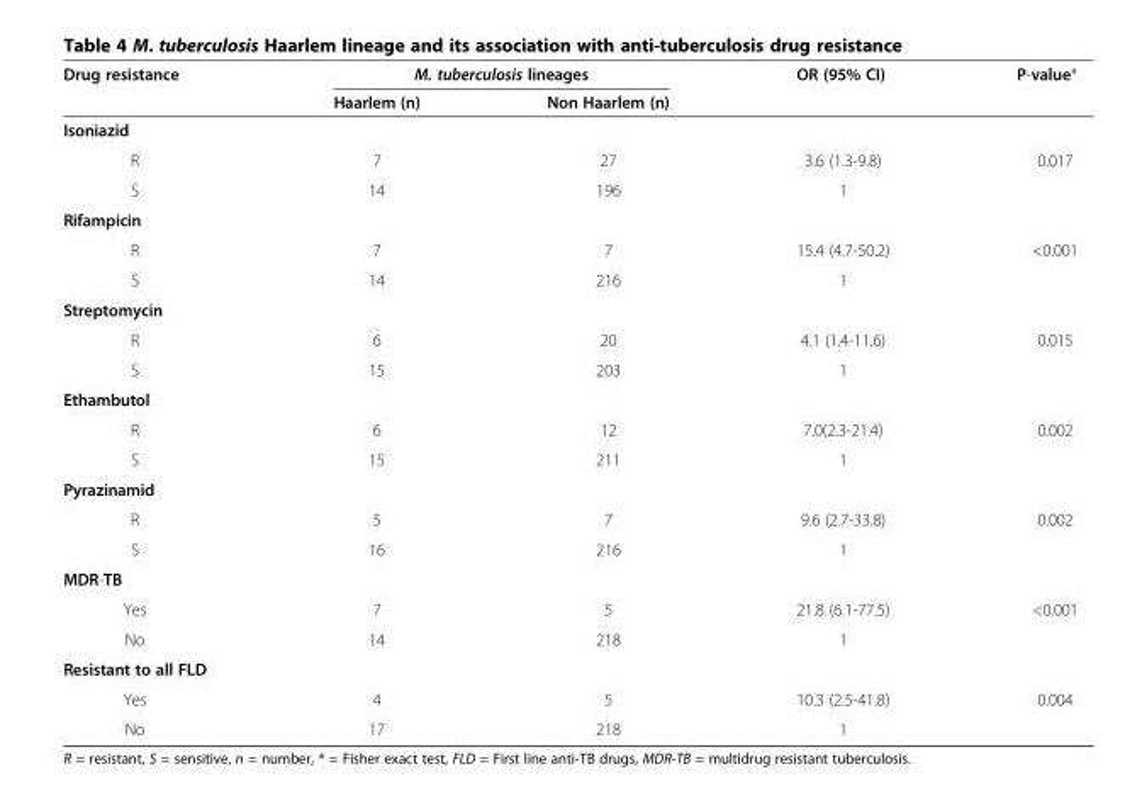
<table><thead><tr><td rowspan="2">Drug resistance</td><td colspan="2">M. tuberculosis lineages</td><td rowspan="2">OR (95% CI)</td><td rowspan="2">P-value*</td></tr><tr><td>Haarlem (n)</td><td>Non Haarlem (n)</td></tr></thead><tbody><tr><td colspan="5">Isoniazid</td></tr><tr><td>R</td><td>7</td><td>27</td><td>3.6 (1.3-9.8)</td><td>0.017</td></tr><tr><td>S</td><td>14</td><td>196</td><td>1</td><td></td></tr><tr><td colspan="5">Rifampicin</td></tr><tr><td>R</td><td>7</td><td>7</td><td>15.4 (4.7-50.2)</td><td>&lt;0.001</td></tr><tr><td>S</td><td>14</td><td>216</td><td>1</td><td></td></tr><tr><td colspan="5">Streptomycin</td></tr><tr><td>R</td><td>6</td><td>20</td><td>4.1 (1.4-11.6)</td><td>0.015</td></tr><tr><td>S</td><td>15</td><td>203</td><td>1</td><td></td></tr><tr><td colspan="5">Ethambutol</td></tr><tr><td>R</td><td>6</td><td>12</td><td>7.0(2.3-21.4)</td><td>0.002</td></tr><tr><td>S</td><td>15</td><td>211</td><td>1</td><td></td></tr><tr><td colspan="5">Pyrazinamid</td></tr><tr><td>R</td><td>5</td><td>7</td><td>9.6 (2.7-33.8)</td><td>0.002</td></tr><tr><td>S</td><td>16</td><td>216</td><td>1</td><td></td></tr><tr><td colspan="5">MDR-TB</td></tr><tr><td>Yes</td><td>7</td><td>5</td><td>21.8 (6.1-77.5)</td><td>&lt;0.001</td></tr><tr><td>No</td><td>14</td><td>218</td><td>1</td><td></td></tr><tr><td colspan="5">Resistant to all FLD</td></tr><tr><td>Yes</td><td>4</td><td>5</td><td>10.3 (2.5-41.8)</td><td>0.004</td></tr><tr><td>No</td><td>17</td><td>218</td><td>1</td><td></td></tr></tbody></table>